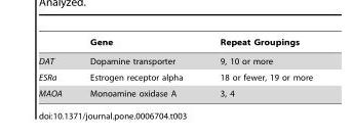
<table><thead><tr><td></td><td>Gene</td><td>Repeat Groupings</td></tr></thead><tbody><tr><td>DAT</td><td>Dopamine transporter</td><td>9, 10 or more</td></tr><tr><td>ESRa</td><td>Estrogen receptor alpha</td><td>18 or fewer, 19 or more</td></tr><tr><td>MAOA</td><td>Monoamine oxidase A</td><td>3, 4</td></tr></tbody></table>